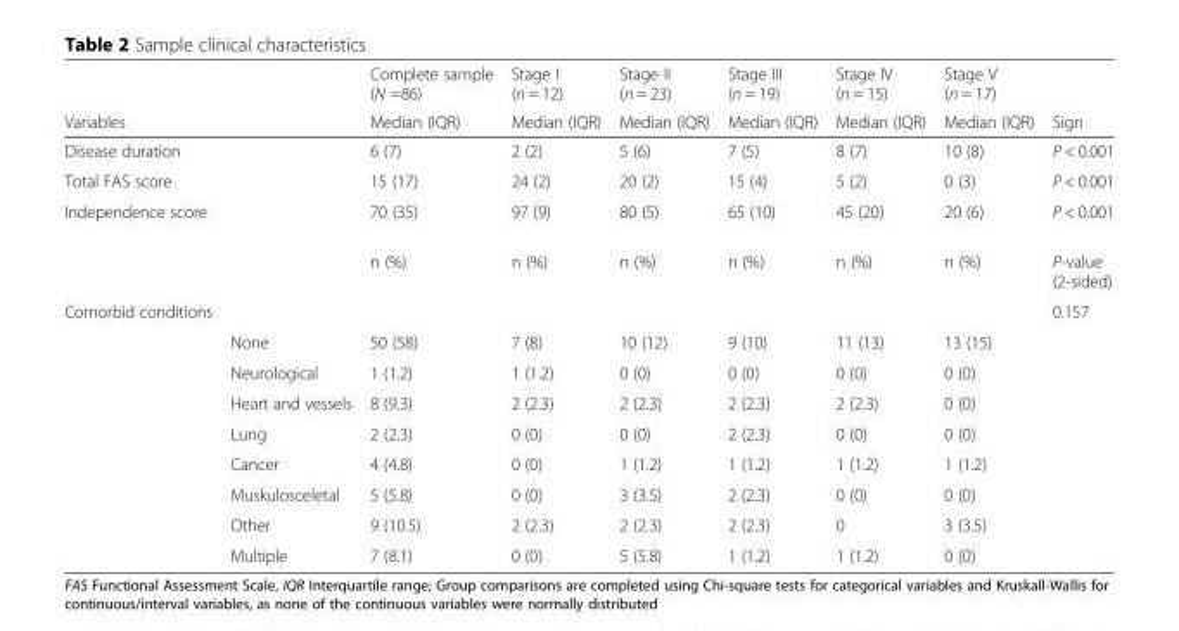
<table><thead><tr><td rowspan="2">Variables</td><td rowspan="2"></td><td rowspan="2">Complete sample (N =86) Median (IQR)</td><td rowspan="2">Stage I (n = 12) Median (IQR)</td><td rowspan="2">Stage II (n = 23) Median (IQR)</td><td rowspan="2">Stage III (n = 19) Median (IQR)</td><td rowspan="2">Stage IV (n = 15) Median (IQR)</td><td rowspan="2">Stage V (n = 17) Median (IQR)</td><td rowspan="2">Sign</td></tr><tr></tr></thead><tbody><tr><td>Disease duration</td><td></td><td>6 (7)</td><td>2 (2)</td><td>5 (6)</td><td>7 (5)</td><td>8 (7)</td><td>10 (8)</td><td>P &lt; 0.001</td></tr><tr><td>Total FAS score</td><td></td><td>15 (17)</td><td>24 (2)</td><td>20 (2)</td><td>15 (4)</td><td>5 (2)</td><td>0 (3)</td><td>P &lt; 0.001</td></tr><tr><td rowspan="2">Independence score</td><td></td><td>70 (35)</td><td>97 (9)</td><td>80 (5)</td><td>65 (10)</td><td>45 (20)</td><td>20 (6)</td><td>P &lt; 0.001</td></tr><tr><td></td><td>n (%)</td><td>n (%)</td><td>n (%)</td><td>n (%)</td><td>n (%)</td><td>n (%)</td><td>P-value (2-sided)</td></tr><tr><td rowspan="9">Comorbid conditions</td><td></td><td></td><td></td><td></td><td></td><td></td><td></td><td>0.157</td></tr><tr><td>None</td><td>50 (58)</td><td>7 (8)</td><td>10 (12)</td><td>9 (10)</td><td>11 (13)</td><td>13 (15)</td><td></td></tr><tr><td>Neurological</td><td>1 (1.2)</td><td>1 (1.2)</td><td>0 (0)</td><td>0 (0)</td><td>0 (0)</td><td>0 (0)</td><td></td></tr><tr><td>Heart and vessels</td><td>8 (9.3)</td><td>2 (2.3)</td><td>2 (2.3)</td><td>2 (2.3)</td><td>2 (2.3)</td><td>0 (0)</td><td></td></tr><tr><td>Lung</td><td>2 (2.3)</td><td>0 (0)</td><td>0 (0)</td><td>2 (2.3)</td><td>0 (0)</td><td>0 (0)</td><td></td></tr><tr><td>Cancer</td><td>4 (4.8)</td><td>0 (0)</td><td>1 (1.2)</td><td>1 (1.2)</td><td>1 (1.2)</td><td>1 (1.2)</td><td></td></tr><tr><td>Muskulosceletal</td><td>5 (5.8)</td><td>0 (0)</td><td>3 (3.5)</td><td>2 (2.3)</td><td>0 (0)</td><td>0 (0)</td><td></td></tr><tr><td>Other</td><td>9 (10.5)</td><td>2 (2.3)</td><td>2 (2.3)</td><td>2 (2.3)</td><td>0</td><td>3 (3.5)</td><td></td></tr><tr><td>Multiple</td><td>7 (8.1)</td><td>0 (0)</td><td>5 (5.8)</td><td>1 (1.2)</td><td>1 (1.2)</td><td>0 (0)</td><td></td></tr></tbody></table>